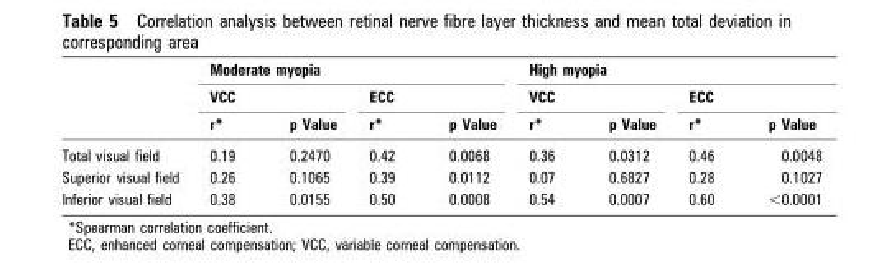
<table><thead><tr><td rowspan="3"></td><td colspan="4">Moderate myopia</td><td colspan="4">High myopia</td></tr><tr><td colspan="2">VCC</td><td colspan="2">ECC</td><td colspan="2">VCC</td><td colspan="2">ECC</td></tr><tr><td>r*</td><td>p Value</td><td>r*</td><td>p Value</td><td>r*</td><td>p Value</td><td>r*</td><td>p Value</td></tr></thead><tbody><tr><td>Total visual field</td><td>0.19</td><td>0.2470</td><td>0.42</td><td>0.0068</td><td>0.36</td><td>0.0312</td><td>0.46</td><td>0.0048</td></tr><tr><td>Superior visual field</td><td>0.26</td><td>0.1065</td><td>0.39</td><td>0.0112</td><td>0.07</td><td>0.6827</td><td>0.28</td><td>0.1027</td></tr><tr><td>Inferior visual field</td><td>0.38</td><td>0.0155</td><td>0.50</td><td>0.0008</td><td>0.54</td><td>0.0007</td><td>0.60</td><td>&lt;0.0001</td></tr></tbody></table>